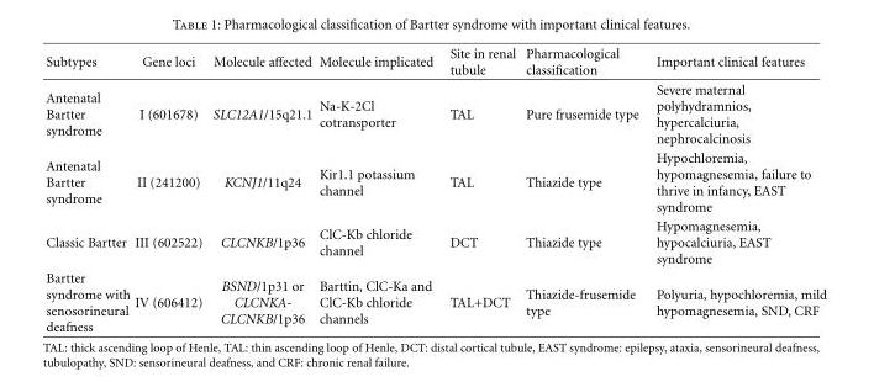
<table><thead><tr><td>Subtypes</td><td>Gene loci</td><td>Molecule affected</td><td>Molecule implicated</td><td>Site in renal tubule</td><td>Pharmacological classification</td><td>Important clinical features</td></tr></thead><tbody><tr><td>Antenatal Bartter syndrome</td><td>I (601678)</td><td>SLC12A1/15q21.1</td><td>Na-K-2Cl cotransporter</td><td>TAL</td><td>Pure frusemide type</td><td>Severe maternal polyhydramnios, hypercalciuria, nephrocalcinosis</td></tr><tr><td>Antenatal Bartter syndrome</td><td>II (241200)</td><td>KCNJ1/11q24</td><td>Kir1.1 potassium channel</td><td>TAL</td><td>Thiazide type</td><td>Hypochloremia, hypomagnesemia, failure to thrive in infancy, EAST syndrome</td></tr><tr><td>Classic Bartter</td><td>III (602522)</td><td>CLCNKB/1p36</td><td>ClC-Kb chloride channel</td><td>DCT</td><td>Thiazide type</td><td>Hypomagnesemia, hypocalciuria, EAST syndrome</td></tr><tr><td>Bartter syndrome with senosorineural deafness</td><td>IV (606412)</td><td>BSND/1p31 or CLCNKA- CLCNKB/1p36</td><td>Barttin, ClC-Ka and ClC-Kb chloride channels</td><td>TAL+DCT</td><td>Thiazide-frusemide type</td><td>Polyuria, hypochloremia, mild hypomagnesemia, SND, CRF</td></tr></tbody></table>